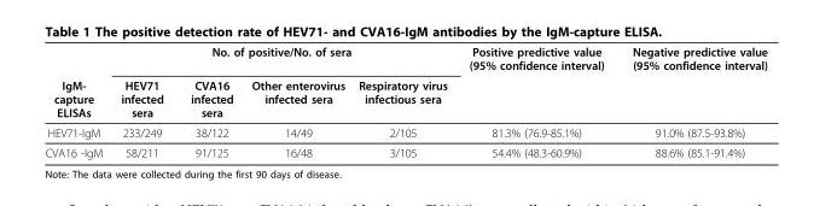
<table><thead><tr><td rowspan="2">IgM- capture ELISAs</td><td colspan="4">No. of positive/No. of sera</td><td rowspan="2">Positive predictive value (95% confidence interval)</td><td rowspan="2">Negative predictive value (95% confidence interval)</td></tr><tr><td>HEV71 infected sera</td><td>CVA16 infected sera</td><td>Other enterovirus infected sera</td><td>Respiratory virus infectious sera</td></tr></thead><tbody><tr><td>HEV71-IgM</td><td>233/249</td><td>38/122</td><td>14/49</td><td>2/105</td><td>81.3% (76.9-85.1%)</td><td>91.0% (87.5-93.8%)</td></tr><tr><td>CVA16 -IgM</td><td>58/211</td><td>91/125</td><td>16/48</td><td>3/105</td><td>54.4% (48.3-60.9%)</td><td>88.6% (85.1-91.4%)</td></tr></tbody></table>